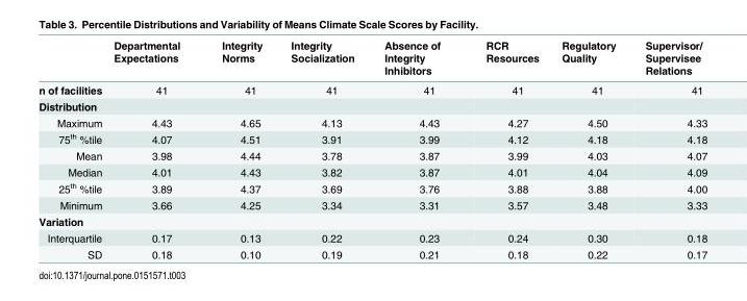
<table><thead><tr><td></td><td>Departmental Expectations</td><td>Integrity Norms</td><td>Integrity Socialization</td><td>Absence of Integrity Inhibitors</td><td>RCR Resources</td><td>Regulatory Quality</td><td>Supervisor/ Supervisee Relations</td></tr></thead><tbody><tr><td>n of facilities</td><td>41</td><td>41</td><td>41</td><td>41</td><td>41</td><td>41</td><td>41</td></tr><tr><td colspan="8">Distribution</td></tr><tr><td>Maximum</td><td>4.43</td><td>4.65</td><td>4.13</td><td>4.43</td><td>4.27</td><td>4.50</td><td>4.33</td></tr><tr><td>75<sup>th</sup> %tile</td><td>4.07</td><td>4.51</td><td>3.91</td><td>3.99</td><td>4.12</td><td>4.18</td><td>4.18</td></tr><tr><td>Mean</td><td>3.98</td><td>4.44</td><td>3.78</td><td>3.87</td><td>3.99</td><td>4.03</td><td>4.07</td></tr><tr><td>Median</td><td>4.01</td><td>4.43</td><td>3.82</td><td>3.87</td><td>4.01</td><td>4.04</td><td>4.09</td></tr><tr><td>25<sup>th</sup> %tile</td><td>3.89</td><td>4.37</td><td>3.69</td><td>3.76</td><td>3.88</td><td>3.88</td><td>4.00</td></tr><tr><td>Minimum</td><td>3.66</td><td>4.25</td><td>3.34</td><td>3.31</td><td>3.57</td><td>3.48</td><td>3.33</td></tr><tr><td colspan="8">Variation</td></tr><tr><td>Interquartile</td><td>0.17</td><td>0.13</td><td>0.22</td><td>0.23</td><td>0.24</td><td>0.30</td><td>0.18</td></tr><tr><td>SD</td><td>0.18</td><td>0.10</td><td>0.19</td><td>0.21</td><td>0.18</td><td>0.22</td><td>0.17</td></tr></tbody></table>